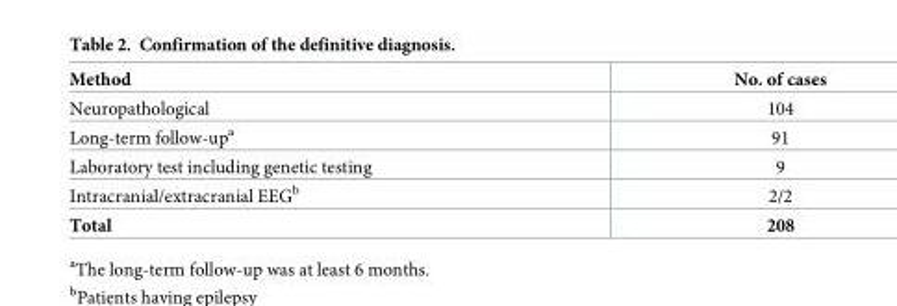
<table><thead><tr><td>Method</td><td>No. of cases</td></tr></thead><tbody><tr><td>Neuropathological</td><td>104</td></tr><tr><td>Long-term follow-up<sup>a</sup></td><td>91</td></tr><tr><td>Laboratory test including genetic testing</td><td>9</td></tr><tr><td>Intracranial/extracranial EEG<sup>b</sup></td><td>2/2</td></tr><tr><td>Total</td><td>208</td></tr></tbody></table>